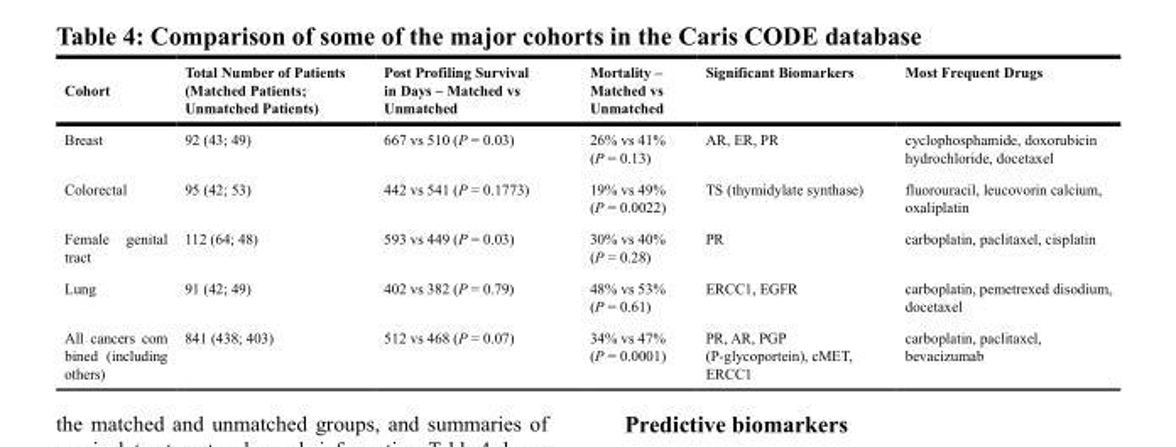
<table><thead><tr><td>Cohort</td><td>Total Number of Patients (Matched Patients; Unmatched Patients)</td><td>Post Profiling Survival in Days – Matched vs Unmatched</td><td>Mortality – Matched vs Unmatched</td><td>Significant Biomarkers</td><td>Most Frequent Drugs</td></tr></thead><tbody><tr><td>Breast</td><td>92 (43; 49)</td><td>667 vs 510 (P = 0.03)</td><td>26% vs 41% (P = 0.13)</td><td>AR, ER, PR</td><td>cyclophosphamide, doxorubicin hydrochloride, docetaxel</td></tr><tr><td>Colorectal</td><td>95 (42; 53)</td><td>442 vs 541 (P = 0.1773)</td><td>19% vs 49% (P = 0.0022)</td><td>TS (thymidylate synthase)</td><td>fluorouracil, leucovorin calcium, oxaliplatin</td></tr><tr><td>Female genital tract</td><td>112 (64; 48)</td><td>593 vs 449 (P = 0.03)</td><td>30% vs 40% (P = 0.28)</td><td>PR</td><td>carboplatin, paclitaxel, cisplatin</td></tr><tr><td>Lung</td><td>91 (42; 49)</td><td>402 vs 382 (P = 0.79)</td><td>48% vs 53% (P = 0.61)</td><td>ERCC1, EGFR</td><td>carboplatin, pemetrexed disodium, docetaxel</td></tr><tr><td>All cancers com bined (including others)</td><td>841 (438; 403)</td><td>512 vs 468 (P = 0.07)</td><td>34% vs 47% (P = 0.0001)</td><td>PR, AR, PGP (P-glycoportein), cMET, ERCC1</td><td>carboplatin, paclitaxel, bevacizumab</td></tr></tbody></table>